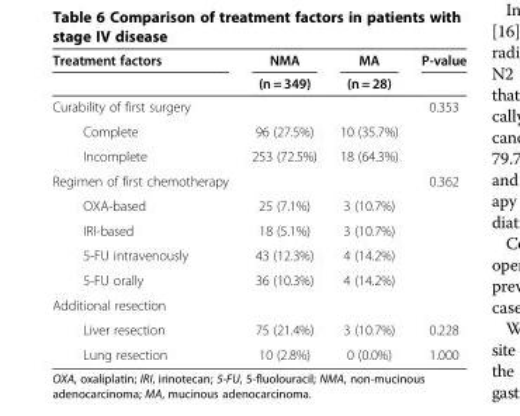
<table><thead><tr><td rowspan="2">Treatment factors</td><td rowspan="2">NMA (n = 349)</td><td rowspan="2">MA (n = 28)</td><td rowspan="2">P-value</td></tr><tr></tr></thead><tbody><tr><td>Curability of first surgery</td><td></td><td></td><td>0.353</td></tr><tr><td>Complete</td><td>96 (27.5%)</td><td>10 (35.7%)</td><td></td></tr><tr><td>Incomplete</td><td>253 (72.5%)</td><td>18 (64.3%)</td><td></td></tr><tr><td>Regimen of first chemotherapy</td><td></td><td></td><td>0.362</td></tr><tr><td>OXA-based</td><td>25 (7.1%)</td><td>3 (10.7%)</td><td></td></tr><tr><td>IRI-based</td><td>18 (5.1%)</td><td>3 (10.7%)</td><td></td></tr><tr><td>5-FU intravenously</td><td>43 (12.3%)</td><td>4 (14.2%)</td><td></td></tr><tr><td>5-FU orally</td><td>36 (10.3%)</td><td>4 (14.2%)</td><td></td></tr><tr><td colspan="4">Additional resection</td></tr><tr><td>Liver resection</td><td>75 (21.4%)</td><td>3 (10.7%)</td><td>0.228</td></tr><tr><td>Lung resection</td><td>10 (2.8%)</td><td>0 (0.0%)</td><td>1.000</td></tr></tbody></table>